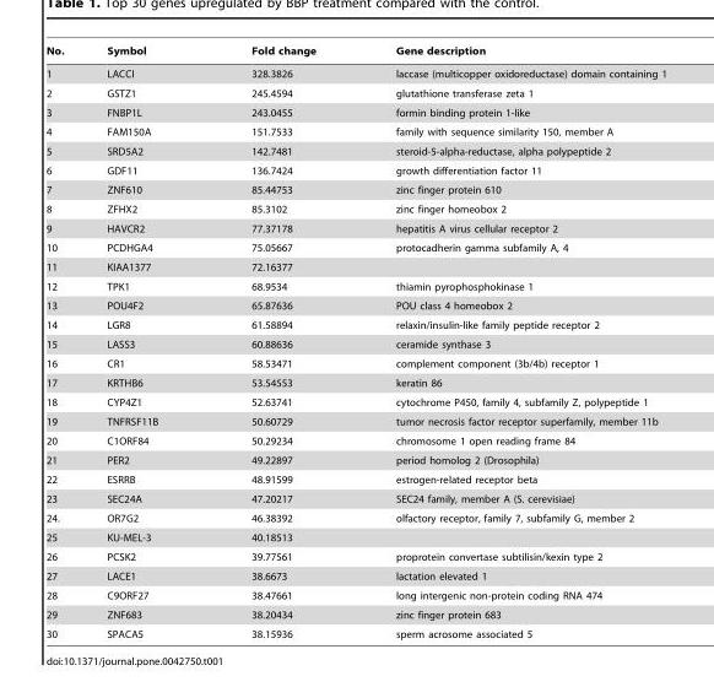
<table><thead><tr><td>No.</td><td>Symbol</td><td>Fold change</td><td>Gene description</td></tr></thead><tbody><tr><td>1</td><td>LACCI</td><td>328.3826</td><td>laccase (multicopper oxidoreductase) domain containing 1</td></tr><tr><td>2</td><td>GSTZ1</td><td>245.4594</td><td>glutathione transferase zeta 1</td></tr><tr><td>3</td><td>FNBP1L</td><td>243.0455</td><td>formin binding protein 1-like</td></tr><tr><td>4</td><td>FAM150A</td><td>151.7533</td><td>family with sequence similarity 150, member A</td></tr><tr><td>5</td><td>SRD5A2</td><td>142.7481</td><td>steroid-5-alpha-reductase, alpha polypeptide 2</td></tr><tr><td>6</td><td>GDF11</td><td>136.7424</td><td>growth differentiation factor 11</td></tr><tr><td>7</td><td>ZNF610</td><td>85.44753</td><td>zinc finger protein 610</td></tr><tr><td>8</td><td>ZFHX2</td><td>85.3102</td><td>zinc finger homeobox 2</td></tr><tr><td>9</td><td>HAVCR2</td><td>77.37178</td><td>hepatitis A virus cellular receptor 2</td></tr><tr><td>10</td><td>PCDHGA4</td><td>75.05667</td><td>protocadherin gamma subfamily A, 4</td></tr><tr><td>11</td><td>KIAA1377</td><td>72.16377</td><td></td></tr><tr><td>12</td><td>TPK1</td><td>68.9534</td><td>thiamin pyrophosphokinase 1</td></tr><tr><td>13</td><td>POU4F2</td><td>65.87636</td><td>POU class 4 homeobox 2</td></tr><tr><td>14</td><td>LGR8</td><td>61.58894</td><td>relaxin/insulin-like family peptide receptor 2</td></tr><tr><td>15</td><td>LASS3</td><td>60.88636</td><td>ceramide synthase 3</td></tr><tr><td>16</td><td>CR1</td><td>58.53471</td><td>complement component (3b/4b) receptor 1</td></tr><tr><td>17</td><td>KRTHB6</td><td>53.54553</td><td>keratin 86</td></tr><tr><td>18</td><td>CYP4Z1</td><td>52.63741</td><td>cytochrome P450, family 4, subfamily Z, polypeptide 1</td></tr><tr><td>19</td><td>TNFRSF11B</td><td>50.60729</td><td>tumor necrosis factor receptor superfamily, member 11b</td></tr><tr><td>20</td><td>C1ORF84</td><td>50.29234</td><td>chromosome 1 open reading frame 84</td></tr><tr><td>21</td><td>PER2</td><td>49.22897</td><td>period homolog 2 (Drosophila)</td></tr><tr><td>22</td><td>ESRRB</td><td>48.91599</td><td>estrogen-related receptor beta</td></tr><tr><td>23</td><td>SEC24A</td><td>47.20217</td><td>SEC24 family, member A (S. cerevisiae)</td></tr><tr><td>24.</td><td>OR7G2</td><td>46.38392</td><td>olfactory receptor, family 7, subfamily G, member 2</td></tr><tr><td>25</td><td>KU-MEL-3</td><td>40.18513</td><td></td></tr><tr><td>26</td><td>PCSK2</td><td>39.77561</td><td>proprotein convertase subtilisin/kexin type 2</td></tr><tr><td>27</td><td>LACE1</td><td>38.6673</td><td>lactation elevated 1</td></tr><tr><td>28</td><td>C9ORF27</td><td>38.47661</td><td>long intergenic non-protein coding RNA 474</td></tr><tr><td>29</td><td>ZNF683</td><td>38.20434</td><td>zinc finger protein 683</td></tr><tr><td>30</td><td>SPACA5</td><td>38.15936</td><td>sperm acrosome associated 5</td></tr></tbody></table>